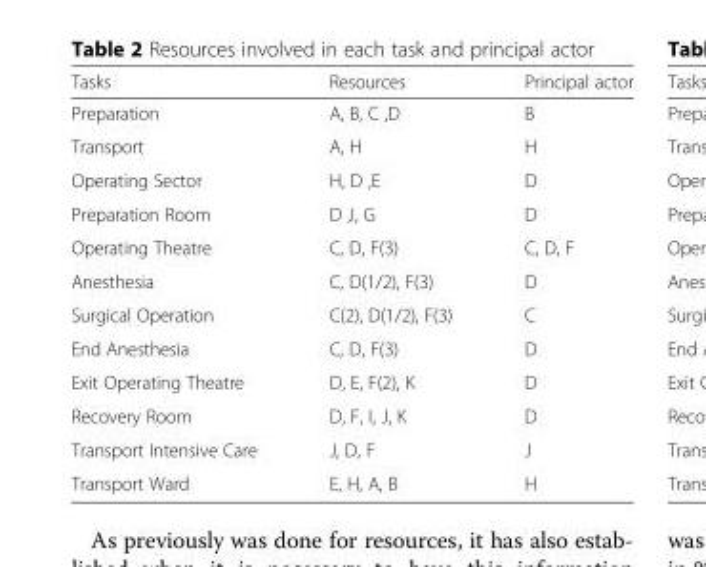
<table><thead><tr><td>Tasks</td><td>Resources</td><td>Principal actor</td></tr></thead><tbody><tr><td>Preparation</td><td>A, B, C ,D</td><td>B</td></tr><tr><td>Transport</td><td>A, H</td><td>H</td></tr><tr><td>Operating Sector</td><td>H, D ,E</td><td>D</td></tr><tr><td>Preparation Room</td><td>D ,I, G</td><td>D</td></tr><tr><td>Operating Theatre</td><td>C, D, F(3)</td><td>C, D, F</td></tr><tr><td>Anesthesia</td><td>C, D(1/2), F(3)</td><td>D</td></tr><tr><td>Surgical Operation</td><td>C(2), D(1/2), F(3)</td><td>C</td></tr><tr><td>End Anesthesia</td><td>C, D, F(3)</td><td>D</td></tr><tr><td>Exit Operating Theatre</td><td>D, E, F(2), K</td><td>D</td></tr><tr><td>Recovery Room</td><td>D, F, I, J, K</td><td>D</td></tr><tr><td>Transport Intensive Care</td><td>J, D, F</td><td>J</td></tr><tr><td>Transport Ward</td><td>E, H, A, B</td><td>H</td></tr></tbody></table>